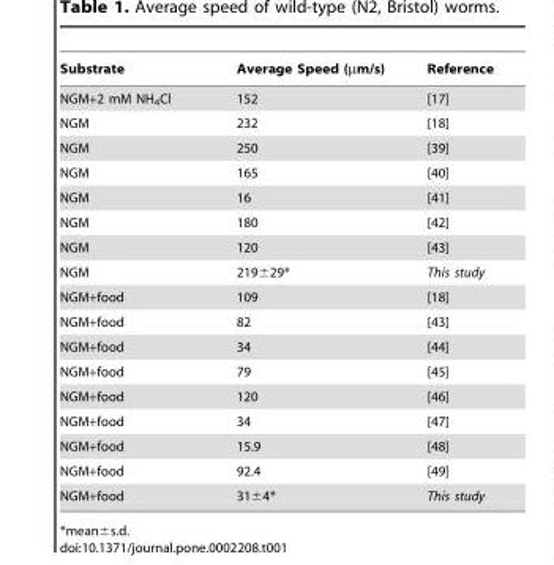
<table><thead><tr><td>Substrate</td><td>Average Speed (µm/s)</td><td>Reference</td></tr></thead><tbody><tr><td>NGM+2 mM NH<sub>4</sub>Cl</td><td>152</td><td>[17]</td></tr><tr><td>NGM</td><td>232</td><td>[18]</td></tr><tr><td>NGM</td><td>250</td><td>[39]</td></tr><tr><td>NGM</td><td>165</td><td>[40]</td></tr><tr><td>NGM</td><td>16</td><td>[41]</td></tr><tr><td>NGM</td><td>180</td><td>[42]</td></tr><tr><td>NGM</td><td>120</td><td>[43]</td></tr><tr><td>NGM</td><td>219±29*</td><td>This study</td></tr><tr><td>NGM+food</td><td>109</td><td>[18]</td></tr><tr><td>NGM+food</td><td>82</td><td>[43]</td></tr><tr><td>NGM+food</td><td>34</td><td>[44]</td></tr><tr><td>NGM+food</td><td>79</td><td>[45]</td></tr><tr><td>NGM+food</td><td>120</td><td>[46]</td></tr><tr><td>NGM+food</td><td>34</td><td>[47]</td></tr><tr><td>NGM+food</td><td>15.9</td><td>[48]</td></tr><tr><td>NGM+food</td><td>92.4</td><td>[49]</td></tr><tr><td>NGM+food</td><td>31±4*</td><td>This study</td></tr></tbody></table>